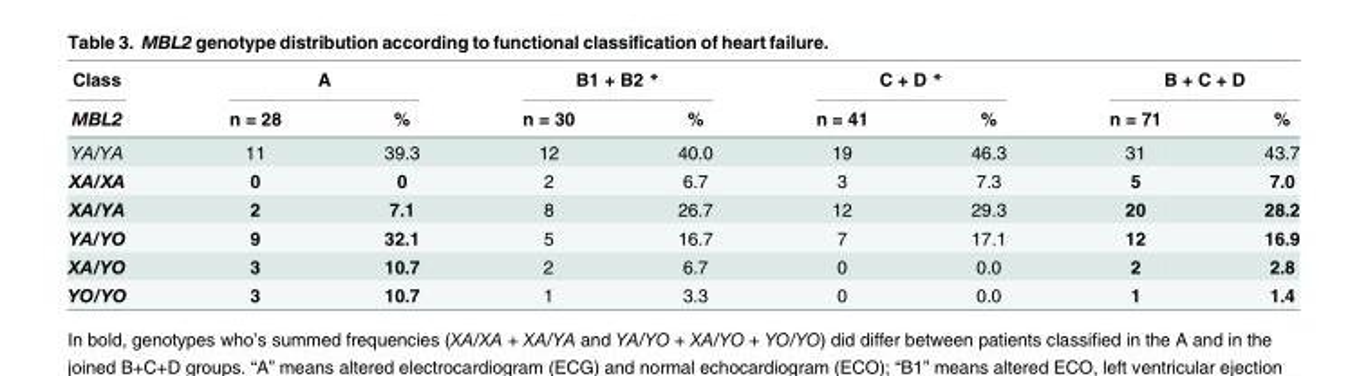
<table><thead><tr><td rowspan="2">Class MBL2</td><td colspan="2">A</td><td colspan="2">B1 + B2 *</td><td colspan="2">C + D *</td><td colspan="2">B + C + D</td></tr><tr><td>n = 28</td><td>%</td><td>n = 30</td><td>%</td><td>n = 41</td><td>%</td><td>n = 71</td><td>%</td></tr></thead><tbody><tr><td>YA/YA</td><td>11</td><td>39.3</td><td>12</td><td>40.0</td><td>19</td><td>46.3</td><td>31</td><td>43.7</td></tr><tr><td>XA/XA</td><td>0</td><td>0</td><td>2</td><td>6.7</td><td>3</td><td>7.3</td><td>5</td><td>7.0</td></tr><tr><td>XA/YA</td><td>2</td><td>7.1</td><td>8</td><td>26.7</td><td>12</td><td>29.3</td><td>20</td><td>28.2</td></tr><tr><td>YA/YO</td><td>9</td><td>32.1</td><td>5</td><td>16.7</td><td>7</td><td>17.1</td><td>12</td><td>16.9</td></tr><tr><td>XA/YO</td><td>3</td><td>10.7</td><td>2</td><td>6.7</td><td>0</td><td>0.0</td><td>2</td><td>2.8</td></tr><tr><td>YO/YO</td><td>3</td><td>10.7</td><td>1</td><td>3.3</td><td>0</td><td>0.0</td><td>1</td><td>1.4</td></tr></tbody></table>